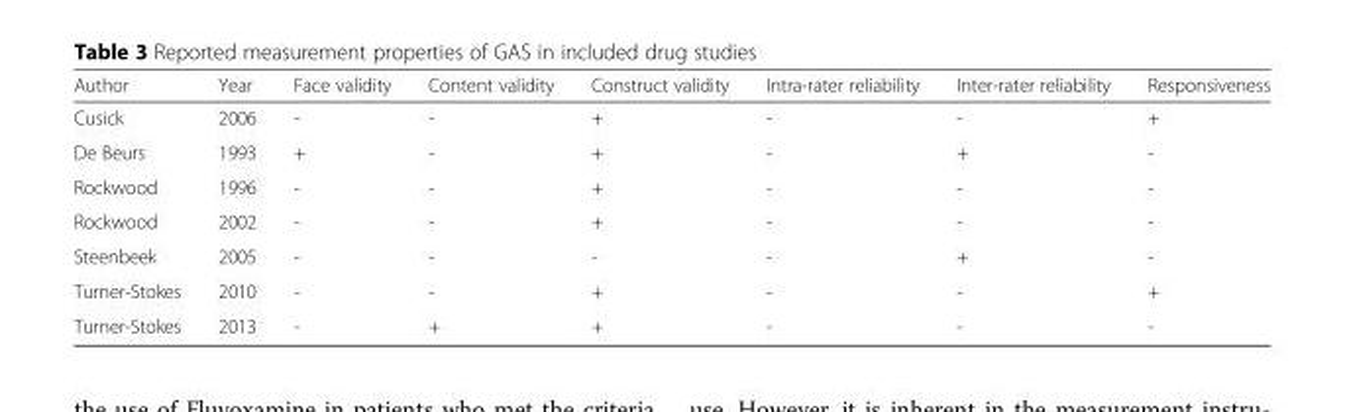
<table><thead><tr><td>Author</td><td>Year</td><td>Face validity</td><td>Content validity</td><td>Construct validity</td><td>Intra-rater reliability</td><td>Inter-rater reliability</td><td>Responsiveness</td></tr></thead><tbody><tr><td>Cusick</td><td>2006</td><td>-</td><td>-</td><td>+</td><td>-</td><td>-</td><td>+</td></tr><tr><td>De Beurs</td><td>1993</td><td>+</td><td>-</td><td>+</td><td>-</td><td>+</td><td>-</td></tr><tr><td>Rockwood</td><td>1996</td><td>-</td><td>-</td><td>+</td><td>-</td><td>-</td><td>-</td></tr><tr><td>Rockwood</td><td>2002</td><td>-</td><td>-</td><td>+</td><td>-</td><td>-</td><td>-</td></tr><tr><td>Steenbeek</td><td>2005</td><td>-</td><td>-</td><td>-</td><td>-</td><td>+</td><td>-</td></tr><tr><td>Turner-Stokes</td><td>2010</td><td>-</td><td>-</td><td>+</td><td>-</td><td>-</td><td>+</td></tr><tr><td>Turner-Stokes</td><td>2013</td><td>-</td><td>+</td><td>+</td><td>-</td><td>-</td><td>-</td></tr></tbody></table>